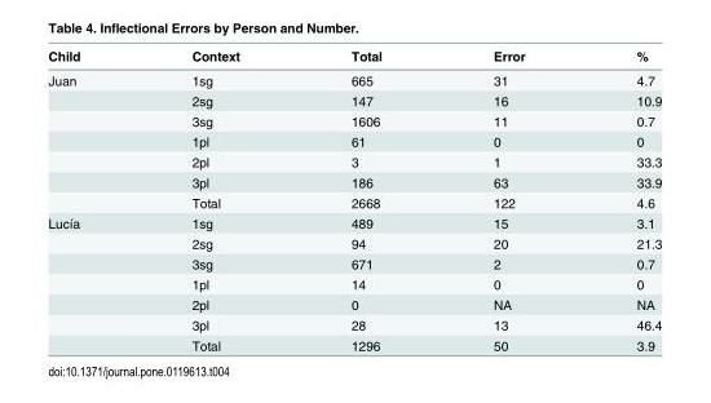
<table><thead><tr><td>Child</td><td>Context</td><td>Total</td><td>Error</td><td>%</td></tr></thead><tbody><tr><td rowspan="7">Juan</td><td>1sg</td><td>665</td><td>31</td><td>4.7</td></tr><tr><td>2sg</td><td>147</td><td>16</td><td>10.9</td></tr><tr><td>3sg</td><td>1606</td><td>11</td><td>0.7</td></tr><tr><td>1pl</td><td>61</td><td>0</td><td>0</td></tr><tr><td>2pl</td><td>3</td><td>1</td><td>33.3</td></tr><tr><td>3pl</td><td>186</td><td>63</td><td>33.9</td></tr><tr><td>Total</td><td>2668</td><td>122</td><td>4.6</td></tr><tr><td rowspan="7">Lucía</td><td>1sg</td><td>489</td><td>15</td><td>3.1</td></tr><tr><td>2sg</td><td>94</td><td>20</td><td>21.3</td></tr><tr><td>3sg</td><td>671</td><td>2</td><td>0.7</td></tr><tr><td>1pl</td><td>14</td><td>0</td><td>0</td></tr><tr><td>2pl</td><td>0</td><td>NA</td><td>NA</td></tr><tr><td>3pl</td><td>28</td><td>13</td><td>46.4</td></tr><tr><td>Total</td><td>1296</td><td>50</td><td>3.9</td></tr></tbody></table>